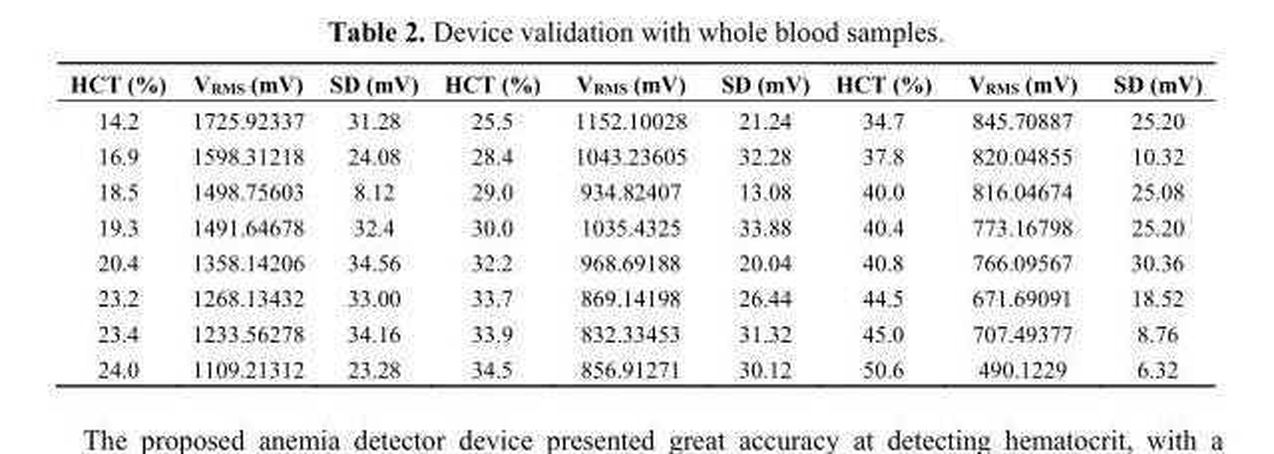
<table><thead><tr><td>HCT (%)</td><td>V<sub>RMS</sub> (mV)</td><td>SD (mV)</td><td>HCT (%)</td><td>V<sub>RMS</sub> (mV)</td><td>SD (mV)</td><td>HCT (%)</td><td>V<sub>RMS</sub> (mV)</td><td>SD (mV)</td></tr></thead><tbody><tr><td>14.2</td><td>1725.92337</td><td>31.28</td><td>25.5</td><td>1152.10028</td><td>21.24</td><td>34.7</td><td>845.70887</td><td>25.20</td></tr><tr><td>16.9</td><td>1598.31218</td><td>24.08</td><td>28.4</td><td>1043.23605</td><td>32.28</td><td>37.8</td><td>820.04855</td><td>10.32</td></tr><tr><td>18.5</td><td>1498.75603</td><td>8.12</td><td>29.0</td><td>934.82407</td><td>13.08</td><td>40.0</td><td>816.04674</td><td>25.08</td></tr><tr><td>19.3</td><td>1491.64678</td><td>32.4</td><td>30.0</td><td>1035.4325</td><td>33.88</td><td>40.4</td><td>773.16798</td><td>25.20</td></tr><tr><td>20.4</td><td>1358.14206</td><td>34.56</td><td>32.2</td><td>968.69188</td><td>20.04</td><td>40.8</td><td>766.09567</td><td>30.36</td></tr><tr><td>23.2</td><td>1268.13432</td><td>33.00</td><td>33.7</td><td>869.14198</td><td>26.44</td><td>44.5</td><td>671.69091</td><td>18.52</td></tr><tr><td>23.4</td><td>1233.56278</td><td>34.16</td><td>33.9</td><td>832.33453</td><td>31.32</td><td>45.0</td><td>707.49377</td><td>8.76</td></tr><tr><td>24.0</td><td>1109.21312</td><td>23.28</td><td>34.5</td><td>856.91271</td><td>30.12</td><td>50.6</td><td>490.1229</td><td>6.32</td></tr></tbody></table>